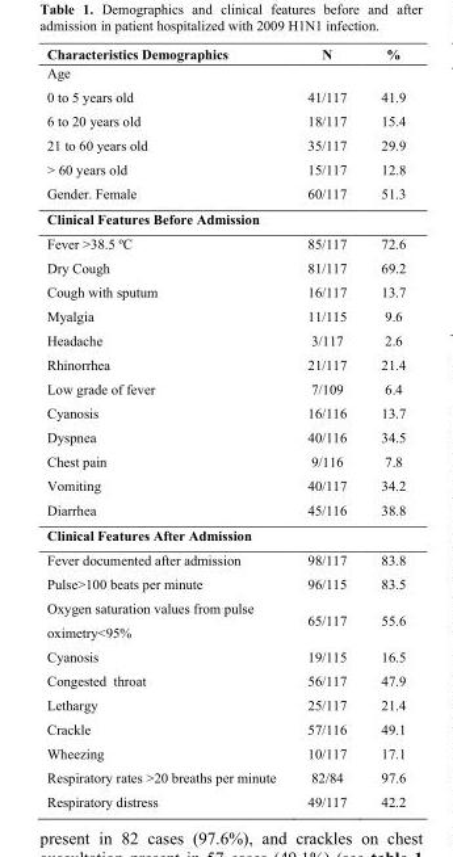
<table><thead><tr><td>Characteristics Demographics</td><td>N</td><td>%</td></tr></thead><tbody><tr><td colspan="3">Age</td></tr><tr><td>0 to 5 years old</td><td>41/117</td><td>41.9</td></tr><tr><td>6 to 20 years old</td><td>18/117</td><td>15.4</td></tr><tr><td>21 to 60 years old</td><td>35/117</td><td>29.9</td></tr><tr><td>&gt; 60 years old</td><td>15/117</td><td>12.8</td></tr><tr><td>Gender. Female</td><td>60/117</td><td>51.3</td></tr><tr><td colspan="3">Clinical Features Before Admission</td></tr><tr><td>Fever &gt;38.5 ºC</td><td>85/117</td><td>72.6</td></tr><tr><td>Dry Cough</td><td>81/117</td><td>69.2</td></tr><tr><td>Cough with sputum</td><td>16/117</td><td>13.7</td></tr><tr><td>Myalgia</td><td>11/115</td><td>9.6</td></tr><tr><td>Headache</td><td>3/117</td><td>2.6</td></tr><tr><td>Rhinorrhea</td><td>21/117</td><td>21.4</td></tr><tr><td>Low grade of fever</td><td>7/109</td><td>6.4</td></tr><tr><td>Cyanosis</td><td>16/116</td><td>13.7</td></tr><tr><td>Dyspnea</td><td>40/116</td><td>34.5</td></tr><tr><td>Chest pain</td><td>9/116</td><td>7.8</td></tr><tr><td>Vomiting</td><td>40/117</td><td>34.2</td></tr><tr><td>Diarrhea</td><td>45/116</td><td>38.8</td></tr><tr><td colspan="3">Clinical Features After Admission</td></tr><tr><td>Fever documented after admission</td><td>98/117</td><td>83.8</td></tr><tr><td>Pulse&gt;100 beats per minute</td><td>96/115</td><td>83.5</td></tr><tr><td>Oxygen saturation values from pulse oximetry&lt;95%</td><td>65/117</td><td>55.6</td></tr><tr><td>Cyanosis</td><td>19/115</td><td>16.5</td></tr><tr><td>Congested throat</td><td>56/117</td><td>47.9</td></tr><tr><td>Lethargy</td><td>25/117</td><td>21.4</td></tr><tr><td>Crackle</td><td>57/116</td><td>49.1</td></tr><tr><td>Wheezing</td><td>10/117</td><td>17.1</td></tr><tr><td>Respiratory rates &gt;20 breaths per minute</td><td>82/84</td><td>97.6</td></tr><tr><td>Respiratory distress</td><td>49/117</td><td>42.2</td></tr></tbody></table>